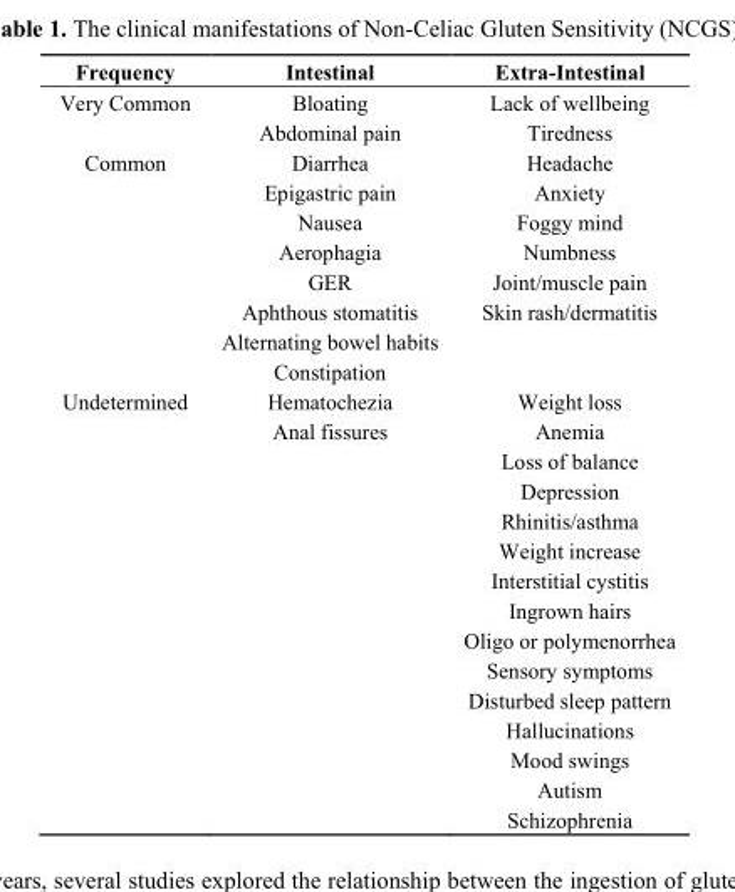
<table><thead><tr><td>Frequency</td><td>Intestinal</td><td>Extra-Intestinal</td></tr></thead><tbody><tr><td rowspan="2">Very Common</td><td>Bloating</td><td>Lack of wellbeing</td></tr><tr><td>Abdominal pain</td><td>Tiredness</td></tr><tr><td rowspan="8">Common</td><td>Diarrhea</td><td>Headache</td></tr><tr><td>Epigastric pain</td><td>Anxiety</td></tr><tr><td>Nausea</td><td>Foggy mind</td></tr><tr><td>Aerophagia</td><td>Numbness</td></tr><tr><td>GER</td><td>Joint/muscle pain</td></tr><tr><td>Aphthous stomatitis</td><td>Skin rash/dermatitis</td></tr><tr><td>Alternating bowel habits</td><td></td></tr><tr><td>Constipation</td><td></td></tr><tr><td rowspan="15">Undetermined</td><td>Hematochezia</td><td>Weight loss</td></tr><tr><td>Anal fissures</td><td>Anemia</td></tr><tr><td></td><td>Loss of balance</td></tr><tr><td></td><td>Depression</td></tr><tr><td></td><td>Rhinitis/asthma</td></tr><tr><td></td><td>Weight increase</td></tr><tr><td></td><td>Interstitial cystitis</td></tr><tr><td></td><td>Ingrown hairs</td></tr><tr><td></td><td>Oligo or polymenorrhea</td></tr><tr><td></td><td>Sensory symptoms</td></tr><tr><td></td><td>Disturbed sleep pattern</td></tr><tr><td></td><td>Hallucinations</td></tr><tr><td></td><td>Mood swings</td></tr><tr><td></td><td>Autism</td></tr><tr><td></td><td>Schizophrenia</td></tr></tbody></table>